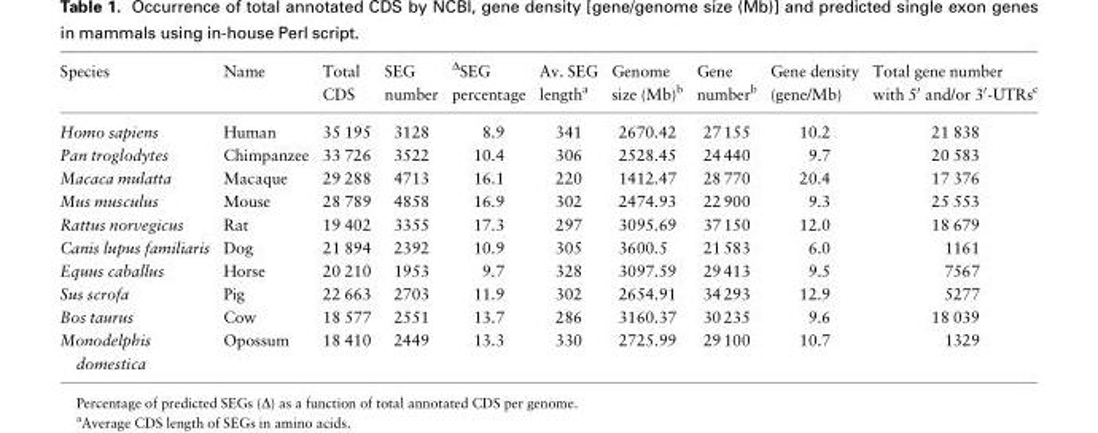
<table><thead><tr><td>Species</td><td>Name</td><td>Total CDS</td><td>SEG number</td><td><sup>Δ</sup>SEG percentage</td><td>Av. SEG length<sup>a</sup></td><td>Genome size (Mb)<sup>b</sup></td><td>Gene number<sup>b</sup></td><td>Gene density (gene/Mb)</td><td>Total gene number with 5′ and/or 3′-UTRs<sup>c</sup></td></tr></thead><tbody><tr><td>Homo sapiens</td><td>Human</td><td>35 195</td><td>3128</td><td>8.9</td><td>341</td><td>2670.42</td><td>27 155</td><td>10.2</td><td>21 838</td></tr><tr><td>Pan troglodytes</td><td>Chimpanzee</td><td>33 726</td><td>3522</td><td>10.4</td><td>306</td><td>2528.45</td><td>24 440</td><td>9.7</td><td>20 583</td></tr><tr><td>Macaca mulatta</td><td>Macaque</td><td>29 288</td><td>4713</td><td>16.1</td><td>220</td><td>1412.47</td><td>28 770</td><td>20.4</td><td>17 376</td></tr><tr><td>Mus musculus</td><td>Mouse</td><td>28 789</td><td>4858</td><td>16.9</td><td>302</td><td>2474.93</td><td>22 900</td><td>9.3</td><td>25 553</td></tr><tr><td>Rattus norvegicus</td><td>Rat</td><td>19 402</td><td>3355</td><td>17.3</td><td>297</td><td>3095.69</td><td>37 150</td><td>12.0</td><td>18 679</td></tr><tr><td>Canis lupus familiaris</td><td>Dog</td><td>21 894</td><td>2392</td><td>10.9</td><td>305</td><td>3600.5</td><td>21 583</td><td>6.0</td><td>1161</td></tr><tr><td>Equus caballus</td><td>Horse</td><td>20 210</td><td>1953</td><td>9.7</td><td>328</td><td>3097.59</td><td>29 413</td><td>9.5</td><td>7567</td></tr><tr><td>Sus scrofa</td><td>Pig</td><td>22 663</td><td>2703</td><td>11.9</td><td>302</td><td>2654.91</td><td>34 293</td><td>12.9</td><td>5277</td></tr><tr><td>Bos taurus</td><td>Cow</td><td>18 577</td><td>2551</td><td>13.7</td><td>286</td><td>3160.37</td><td>30 235</td><td>9.6</td><td>18 039</td></tr><tr><td>Monodelphis domestica</td><td>Opossum</td><td>18 410</td><td>2449</td><td>13.3</td><td>330</td><td>2725.99</td><td>29 100</td><td>10.7</td><td>1329</td></tr></tbody></table>